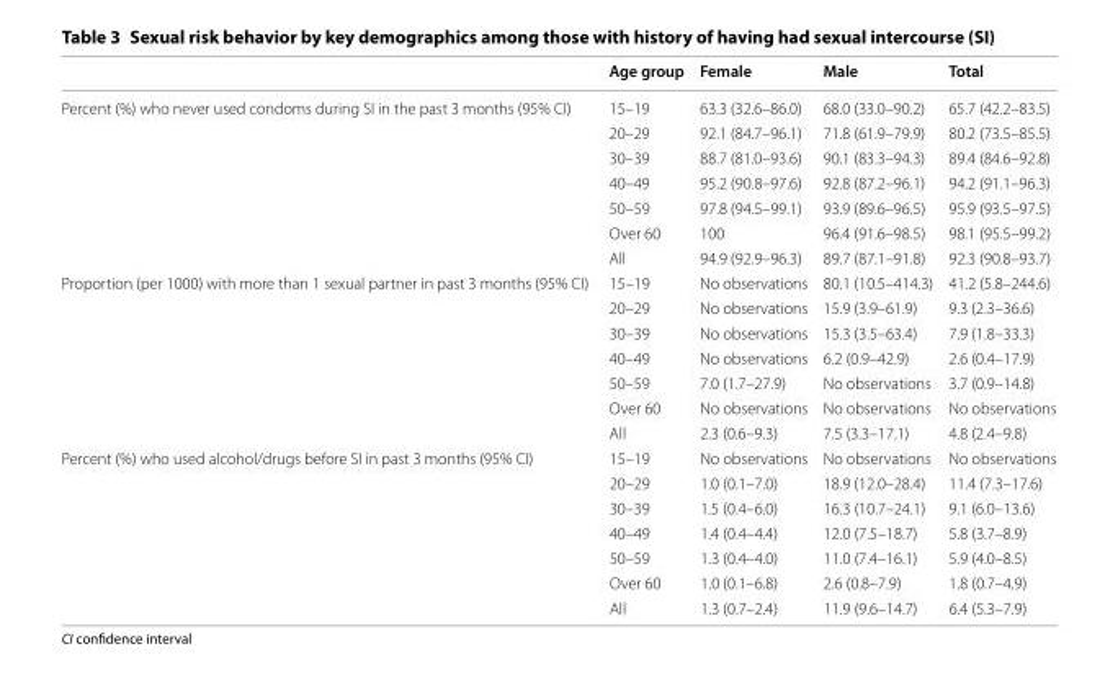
<table><thead><tr><td></td><td>Age group</td><td>Female</td><td>Male</td><td>Total</td></tr></thead><tbody><tr><td rowspan="7">Percent (%) who never used condoms during SI in the past 3 months (95% CI)</td><td>15–19</td><td>63.3 (32.6–86.0)</td><td>68.0 (33.0–90.2)</td><td>65.7 (42.2–83.5)</td></tr><tr><td>20–29</td><td>92.1 (84.7–96.1)</td><td>71.8 (61.9–79.9)</td><td>80.2 (73.5–85.5)</td></tr><tr><td>30–39</td><td>88.7 (81.0–93.6)</td><td>90.1 (83.3–94.3)</td><td>89.4 (84.6–92.8)</td></tr><tr><td>40–49</td><td>95.2 (90.8–97.6)</td><td>92.8 (87.2–96.1)</td><td>94.2 (91.1–96.3)</td></tr><tr><td>50–59</td><td>97.8 (94.5–99.1)</td><td>93.9 (89.6–96.5)</td><td>95.9 (93.5–97.5)</td></tr><tr><td>Over 60</td><td>100</td><td>96.4 (91.6–98.5)</td><td>98.1 (95.5–99.2)</td></tr><tr><td>All</td><td>94.9 (92.9–96.3)</td><td>89.7 (87.1–91.8)</td><td>92.3 (90.8–93.7)</td></tr><tr><td rowspan="7">Proportion (per 1000) with more than 1 sexual partner in past 3 months (95% CI)</td><td>15–19</td><td>No observations</td><td>80.1 (10.5–414.3)</td><td>41.2 (5.8–244.6)</td></tr><tr><td>20–29</td><td>No observations</td><td>15.9 (3.9–61.9)</td><td>9.3 (2.3–36.6)</td></tr><tr><td>30–39</td><td>No observations</td><td>15.3 (3.5–63.4)</td><td>7.9 (1.8–33.3)</td></tr><tr><td>40–49</td><td>No observations</td><td>6.2 (0.9–42.9)</td><td>2.6 (0.4–17.9)</td></tr><tr><td>50–59</td><td>7.0 (1.7–27.9)</td><td>No observations</td><td>3.7 (0.9–14.8)</td></tr><tr><td>Over 60</td><td>No observations</td><td>No observations</td><td>No observations</td></tr><tr><td>All</td><td>2.3 (0.6–9.3)</td><td>7.5 (3.3–17.1)</td><td>4.8 (2.4–9.8)</td></tr><tr><td rowspan="7">Percent (%) who used alcohol/drugs before SI in past 3 months (95% CI)</td><td>15–19</td><td>No observations</td><td>No observations</td><td>No observations</td></tr><tr><td>20–29</td><td>1.0 (0.1–7.0)</td><td>18.9 (12.0–28.4)</td><td>11.4 (7.3–17.6)</td></tr><tr><td>30–39</td><td>1.5 (0.4–6.0)</td><td>16.3 (10.7–24.1)</td><td>9.1 (6.0–13.6)</td></tr><tr><td>40–49</td><td>1.4 (0.4–4.4)</td><td>12.0 (7.5–18.7)</td><td>5.8 (3.7–8.9)</td></tr><tr><td>50–59</td><td>1.3 (0.4–4.0)</td><td>11.0 (7.4–16.1)</td><td>5.9 (4.0–8.5)</td></tr><tr><td>Over 60</td><td>1.0 (0.1–6.8)</td><td>2.6 (0.8–7.9)</td><td>1.8 (0.7–4.9)</td></tr><tr><td>All</td><td>1.3 (0.7–2.4)</td><td>11.9 (9.6–14.7)</td><td>6.4 (5.3–7.9)</td></tr></tbody></table>